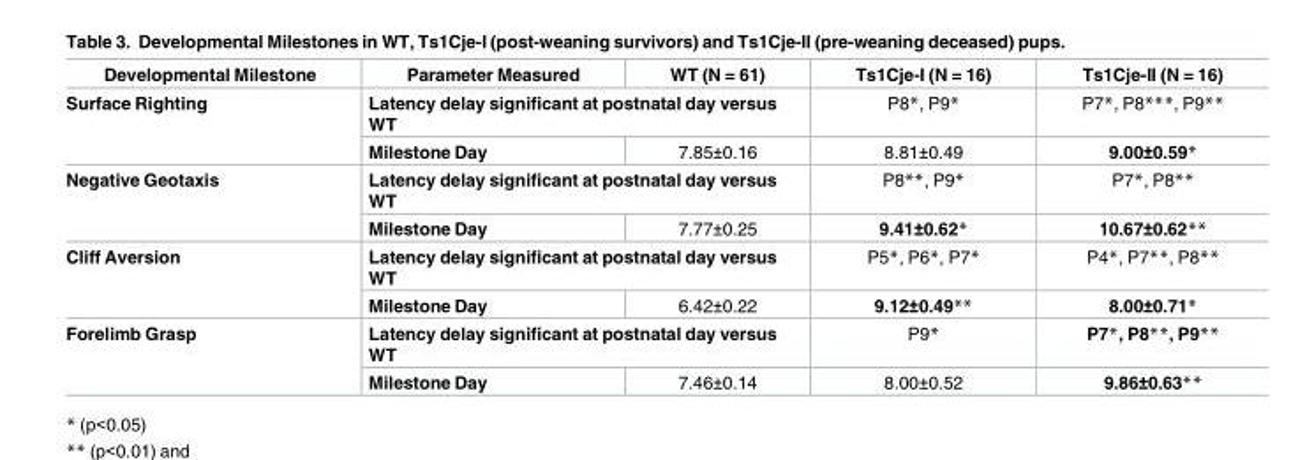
<table><thead><tr><td>Developmental Milestone</td><td>Parameter Measured</td><td>WT (N = 61)</td><td>Ts1Cje-I (N = 16)</td><td>Ts1Cje-II (N = 16)</td></tr></thead><tbody><tr><td rowspan="2">Surface Righting</td><td colspan="2">Latency delay significant at postnatal day versus WT</td><td>P8*, P9*</td><td>P7*, P8***, P9**</td></tr><tr><td>Milestone Day</td><td>7.85±0.16</td><td>8.81±0.49</td><td>9.00±0.59*</td></tr><tr><td rowspan="2">Negative Geotaxis</td><td colspan="2">Latency delay significant at postnatal day versus WT</td><td>P8**, P9*</td><td>P7*, P8**</td></tr><tr><td>Milestone Day</td><td>7.77±0.25</td><td>9.41±0.62*</td><td>10.67±0.62**</td></tr><tr><td rowspan="2">Cliff Aversion</td><td colspan="2">Latency delay significant at postnatal day versus WT</td><td>P5*, P6*, P7*</td><td>P4*, P7**, P8**</td></tr><tr><td>Milestone Day</td><td>6.42±0.22</td><td>9.12±0.49**</td><td>8.00±0.71*</td></tr><tr><td rowspan="2">Forelimb Grasp</td><td colspan="2">Latency delay significant at postnatal day versus WT</td><td>P9*</td><td>P7*, P8**, P9**</td></tr><tr><td>Milestone Day</td><td>7.46±0.14</td><td>8.00±0.52</td><td>9.86±0.63**</td></tr></tbody></table>